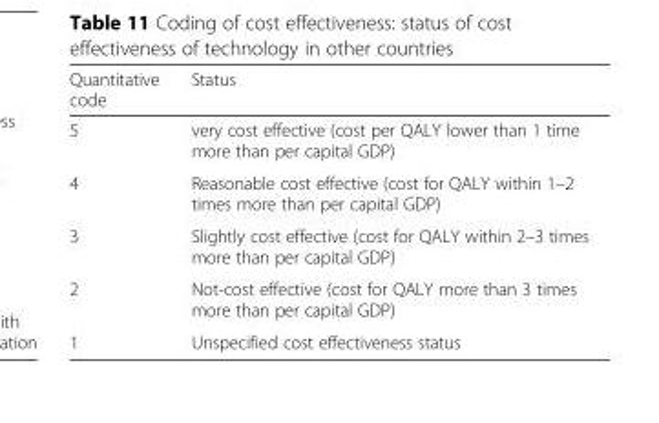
<table><thead><tr><td>Quantitative code</td><td>Status</td></tr></thead><tbody><tr><td>5</td><td>very cost effective (cost per QALY lower than 1 time more than per capital GDP)</td></tr><tr><td>4</td><td>Reasonable cost effective (cost for QALY within 1–2 times more than per capital GDP)</td></tr><tr><td>3</td><td>Slightly cost effective (cost for QALY within 2–3 times more than per capital GDP)</td></tr><tr><td>2</td><td>Not-cost effective (cost for QALY more than 3 times more than per capital GDP)</td></tr><tr><td>1</td><td>Unspecified cost effectiveness status</td></tr></tbody></table>